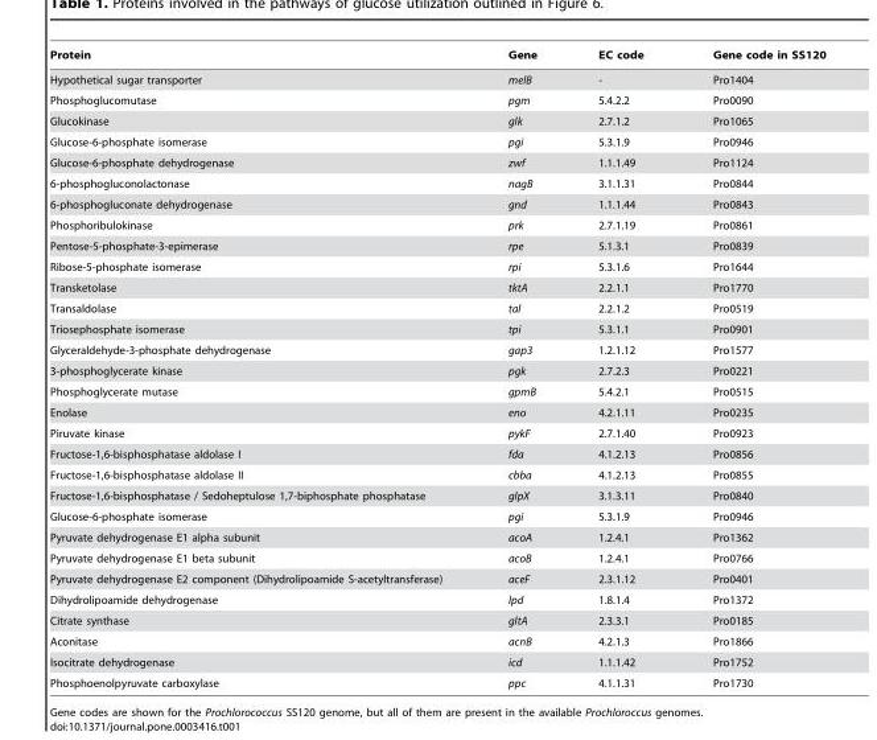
<table><thead><tr><td>Protein</td><td>Gene</td><td>EC code</td><td>Gene code in SS120</td></tr></thead><tbody><tr><td>Hypothetical sugar transporter</td><td>melB</td><td>-</td><td>Pro1404</td></tr><tr><td>Phosphoglucomutase</td><td>pgm</td><td>5.4.2.2</td><td>Pro0090</td></tr><tr><td>Glucokinase</td><td>glk</td><td>2.7.1.2</td><td>Pro1065</td></tr><tr><td>Glucose-6-phosphate isomerase</td><td>pgi</td><td>5.3.1.9</td><td>Pro0946</td></tr><tr><td>Glucose-6-phosphate dehydrogenase</td><td>zwf</td><td>1.1.1.49</td><td>Pro1124</td></tr><tr><td>6-phosphogluconolactonase</td><td>nagB</td><td>3.1.1.31</td><td>Pro0844</td></tr><tr><td>6-phosphogluconate dehydrogenase</td><td>gnd</td><td>1.1.1.44</td><td>Pro0843</td></tr><tr><td>Phosphoribulokinase</td><td>prk</td><td>2.7.1.19</td><td>Pro0861</td></tr><tr><td>Pentose-5-phosphate-3-epimerase</td><td>rpe</td><td>5.1.3.1</td><td>Pro0839</td></tr><tr><td>Ribose-5-phosphate isomerase</td><td>rpi</td><td>5.3.1.6</td><td>Pro1644</td></tr><tr><td>Transketolase</td><td>tktA</td><td>2.2.1.1</td><td>Pro1770</td></tr><tr><td>Transaldolase</td><td>tal</td><td>2.2.1.2</td><td>Pro0519</td></tr><tr><td>Triosephosphate isomerase</td><td>tpi</td><td>5.3.1.1</td><td>Pro0901</td></tr><tr><td>Glyceraldehyde-3-phosphate dehydrogenase</td><td>gap3</td><td>1.2.1.12</td><td>Pro1577</td></tr><tr><td>3-phosphoglycerate kinase</td><td>pgk</td><td>2.7.2.3</td><td>Pro0221</td></tr><tr><td>Phosphoglycerate mutase</td><td>gpmB</td><td>5.4.2.1</td><td>Pro0515</td></tr><tr><td>Enolase</td><td>eno</td><td>4.2.1.11</td><td>Pro0235</td></tr><tr><td>Piruvate kinase</td><td>pykF</td><td>2.7.1.40</td><td>Pro0923</td></tr><tr><td>Fructose-1,6-bisphosphatase aldolase I</td><td>fda</td><td>4.1.2.13</td><td>Pro0856</td></tr><tr><td>Fructose-1,6-bisphosphatase aldolase II</td><td>cbba</td><td>4.1.2.13</td><td>Pro0855</td></tr><tr><td>Fructose-1,6-bisphosphatase / Sedoheptulose 1,7-biphosphate phosphatase</td><td>glpX</td><td>3.1.3.11</td><td>Pro0840</td></tr><tr><td>Glucose-6-phosphate isomerase</td><td>pgi</td><td>5.3.1.9</td><td>Pro0946</td></tr><tr><td>Pyruvate dehydrogenase E1 alpha subunit</td><td>acoA</td><td>1.2.4.1</td><td>Pro1362</td></tr><tr><td>Pyruvate dehydrogenase E1 beta subunit</td><td>acoB</td><td>1.2.4.1</td><td>Pro0766</td></tr><tr><td>Pyruvate dehydrogenase E2 component (Dihydrolipoamide S-acetyltransferase)</td><td>aceF</td><td>2.3.1.12</td><td>Pro0401</td></tr><tr><td>Dihydrolipoamide dehydrogenase</td><td>lpd</td><td>1.8.1.4</td><td>Pro1372</td></tr><tr><td>Citrate synthase</td><td>gltA</td><td>2.3.3.1</td><td>Pro0185</td></tr><tr><td>Aconitase</td><td>acnB</td><td>4.2.1.3</td><td>Pro1866</td></tr><tr><td>Isocitrate dehydrogenase</td><td>icd</td><td>1.1.1.42</td><td>Pro1752</td></tr><tr><td>Phosphoenolpyruvate carboxylase</td><td>ppc</td><td>4.1.1.31</td><td>Pro1730</td></tr></tbody></table>